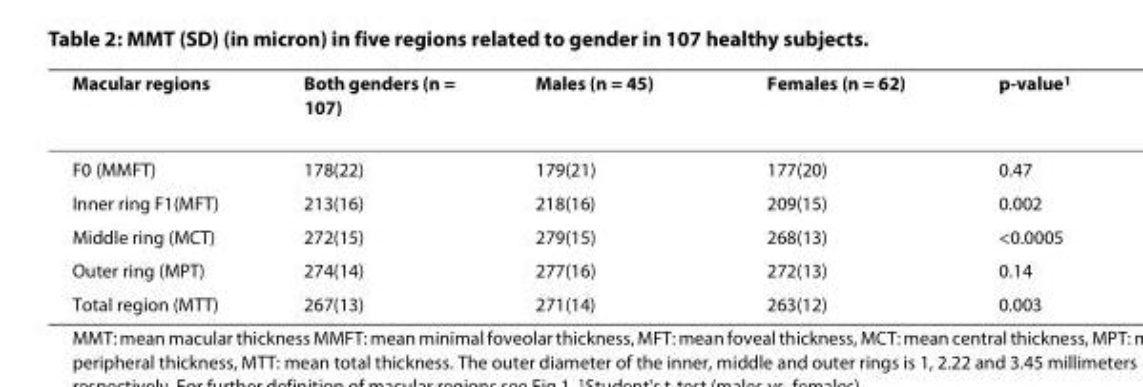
<table><thead><tr><td>Macular regions</td><td>Both genders (n = 107)</td><td>Males (n = 45)</td><td>Females (n = 62)</td><td>p-value<sup>1</sup></td></tr></thead><tbody><tr><td>F0 (MMFT)</td><td>178(22)</td><td>179(21)</td><td>177(20)</td><td>0.47</td></tr><tr><td>Inner ring F1(MFT)</td><td>213(16)</td><td>218(16)</td><td>209(15)</td><td>0.002</td></tr><tr><td>Middle ring (MCT)</td><td>272(15)</td><td>279(15)</td><td>268(13)</td><td>&lt;0.0005</td></tr><tr><td>Outer ring (MPT)</td><td>274(14)</td><td>277(16)</td><td>272(13)</td><td>0.14</td></tr><tr><td>Total region (MTT)</td><td>267(13)</td><td>271(14)</td><td>263(12)</td><td>0.003</td></tr></tbody></table>